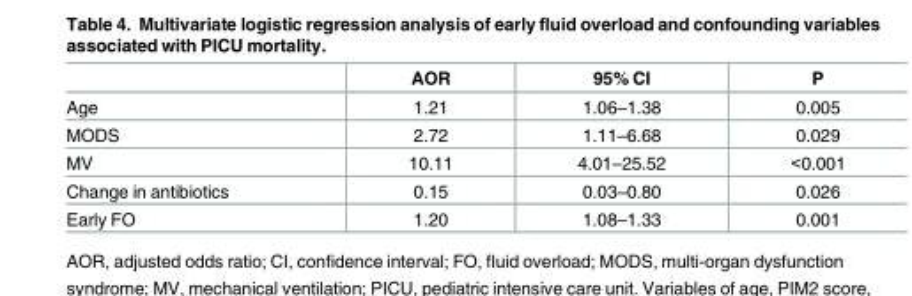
<table><thead><tr><td></td><td>AOR</td><td>95% CI</td><td>P</td></tr></thead><tbody><tr><td>Age</td><td>1.21</td><td>1.06–1.38</td><td>0.005</td></tr><tr><td>MODS</td><td>2.72</td><td>1.11–6.68</td><td>0.029</td></tr><tr><td>MV</td><td>10.11</td><td>4.01–25.52</td><td>&lt;0.001</td></tr><tr><td>Change in antibiotics</td><td>0.15</td><td>0.03–0.80</td><td>0.026</td></tr><tr><td>Early FO</td><td>1.20</td><td>1.08–1.33</td><td>0.001</td></tr></tbody></table>